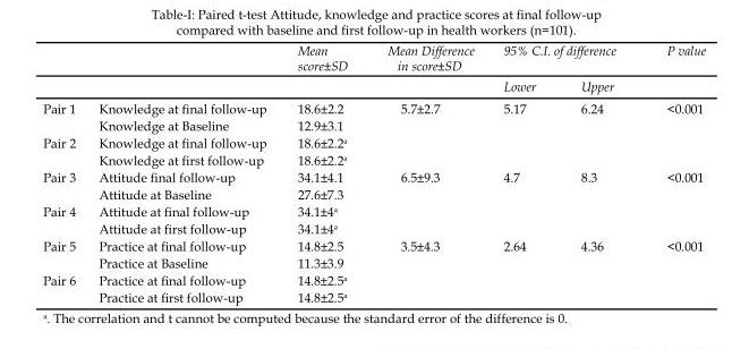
<table><thead><tr><td rowspan="2"></td><td rowspan="2"></td><td rowspan="2">Mean score±SD</td><td rowspan="2">Mean Difference in score±SD</td><td colspan="2">95% C.I. of difference</td><td rowspan="2">P value</td></tr><tr><td>Lower</td><td>Upper</td></tr></thead><tbody><tr><td rowspan="2">Pair 1</td><td>Knowledge at final follow-up</td><td>18.6±2.2</td><td>5.7±2.7</td><td>5.17</td><td>6.24</td><td>&lt;0.001</td></tr><tr><td>Knowledge at Baseline</td><td>12.9±3.1</td><td></td><td></td><td></td><td></td></tr><tr><td rowspan="2">Pair 2</td><td>Knowledge at final follow-up</td><td>18.6±2.2<sup>a</sup></td><td></td><td></td><td></td><td></td></tr><tr><td>Knowledge at first follow-up</td><td>18.6±2.2<sup>a</sup></td><td></td><td></td><td></td><td></td></tr><tr><td rowspan="2">Pair 3</td><td>Attitude final follow-up</td><td>34.1±4.1</td><td>6.5±9.3</td><td>4.7</td><td>8.3</td><td>&lt;0.001</td></tr><tr><td>Attitude at Baseline</td><td>27.6±7.3</td><td></td><td></td><td></td><td></td></tr><tr><td rowspan="2">Pair 4</td><td>Attitude at final follow-up</td><td>34.1±4<sup>a</sup></td><td></td><td></td><td></td><td></td></tr><tr><td>Attitude at first follow-up</td><td>34.1±4<sup>a</sup></td><td></td><td></td><td></td><td></td></tr><tr><td rowspan="2">Pair 5</td><td>Practice at final follow-up</td><td>14.8±2.5</td><td>3.5±4.3</td><td>2.64</td><td>4.36</td><td>&lt;0.001</td></tr><tr><td>Practice at Baseline</td><td>11.3±3.9</td><td></td><td></td><td></td><td></td></tr><tr><td rowspan="2">Pair 6</td><td>Practice at final follow-up</td><td>14.8±2.5<sup>a</sup></td><td></td><td></td><td></td><td></td></tr><tr><td>Practice at first follow-up</td><td>14.8±2.5<sup>a</sup></td><td></td><td></td><td></td><td></td></tr></tbody></table>